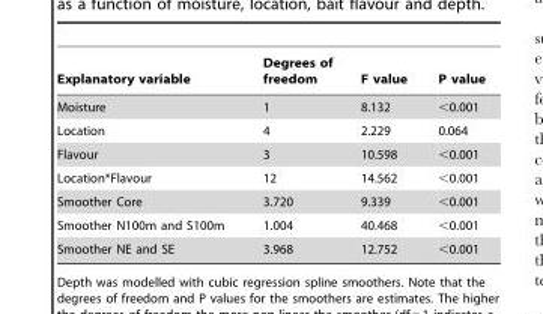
<table><thead><tr><td>Explanatory variable</td><td>Degrees of freedom</td><td>F value</td><td>P value</td></tr></thead><tbody><tr><td>Moisture</td><td>1</td><td>8.132</td><td>&lt;0.001</td></tr><tr><td>Location</td><td>4</td><td>2.229</td><td>0.064</td></tr><tr><td>Flavour</td><td>3</td><td>10.598</td><td>&lt;0.001</td></tr><tr><td>Location*Flavour</td><td>12</td><td>14.562</td><td>&lt;0.001</td></tr><tr><td>Smoother Core</td><td>3.720</td><td>9.339</td><td>&lt;0.001</td></tr><tr><td>Smoother N100m and S100m</td><td>1.004</td><td>40.468</td><td>&lt;0.001</td></tr><tr><td>Smoother NE and SE</td><td>3.968</td><td>12.752</td><td>&lt;0.001</td></tr></tbody></table>